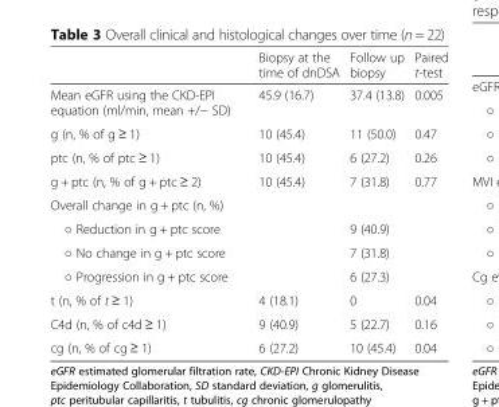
<table><thead><tr><td></td><td>Biopsy at the time of dnDSA</td><td>Follow up biopsy</td><td>Paired t-test</td></tr></thead><tbody><tr><td>Mean eGFR using the CKD-EPI equation (ml/min, mean +/− SD)</td><td>45.9 (16.7)</td><td>37.4 (13.8)</td><td>0.005</td></tr><tr><td>g (n, % of g ≥ 1)</td><td>10 (45.4)</td><td>11 (50.0)</td><td>0.47</td></tr><tr><td>ptc (n, % of ptc ≥ 1)</td><td>10 (45.4)</td><td>6 (27.2)</td><td>0.26</td></tr><tr><td>g + ptc (n, % of g + ptc ≥ 2)</td><td>10 (45.4)</td><td>7 (31.8)</td><td>0.77</td></tr><tr><td colspan="4">Overall change in g + ptc (n, %)</td></tr><tr><td>○ Reduction in g + ptc score</td><td></td><td>9 (40.9)</td><td></td></tr><tr><td>○ No change in g + ptc score</td><td></td><td>7 (31.8)</td><td></td></tr><tr><td>○ Progression in g + ptc score</td><td></td><td>6 (27.3)</td><td></td></tr><tr><td>t (n, % of t ≥ 1)</td><td>4 (18.1)</td><td>0</td><td>0.04</td></tr><tr><td>C4d (n, % of c4d ≥ 1)</td><td>9 (40.9)</td><td>5 (22.7)</td><td>0.16</td></tr><tr><td>cg (n, % of cg ≥ 1)</td><td>6 (27.2)</td><td>10 (45.4)</td><td>0.04</td></tr></tbody></table>